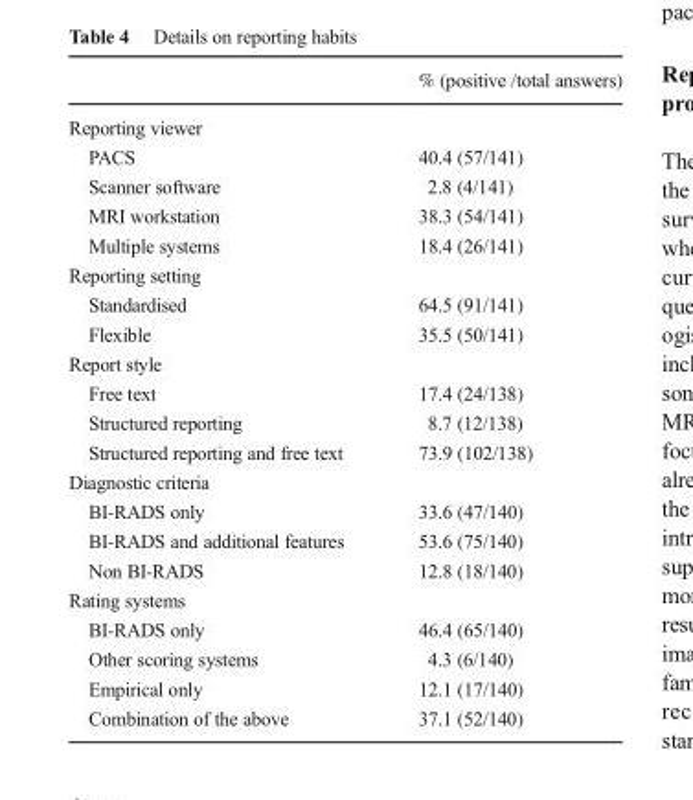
<table><thead><tr><td></td><td>% (positive /total answers)</td></tr></thead><tbody><tr><td colspan="2">Reporting viewer</td></tr><tr><td>PACS</td><td>40.4 (57/141)</td></tr><tr><td>Scanner software</td><td>2.8 (4/141)</td></tr><tr><td>MRI workstation</td><td>38.3 (54/141)</td></tr><tr><td>Multiple systems</td><td>18.4 (26/141)</td></tr><tr><td colspan="2">Reporting setting</td></tr><tr><td>Standardised</td><td>64.5 (91/141)</td></tr><tr><td>Flexible</td><td>35.5 (50/141)</td></tr><tr><td colspan="2">Report style</td></tr><tr><td>Free text</td><td>17.4 (24/138)</td></tr><tr><td>Structured reporting</td><td>8.7 (12/138)</td></tr><tr><td>Structured reporting and free text</td><td>73.9 (102/138)</td></tr><tr><td colspan="2">Diagnostic criteria</td></tr><tr><td>BI-RADS only</td><td>33.6 (47/140)</td></tr><tr><td>BI-RADS and additional features</td><td>53.6 (75/140)</td></tr><tr><td>Non BI-RADS</td><td>12.8 (18/140)</td></tr><tr><td colspan="2">Rating systems</td></tr><tr><td>BI-RADS only</td><td>46.4 (65/140)</td></tr><tr><td>Other scoring systems</td><td>4.3 (6/140)</td></tr><tr><td>Empirical only</td><td>12.1 (17/140)</td></tr><tr><td>Combination of the above</td><td>37.1 (52/140)</td></tr></tbody></table>